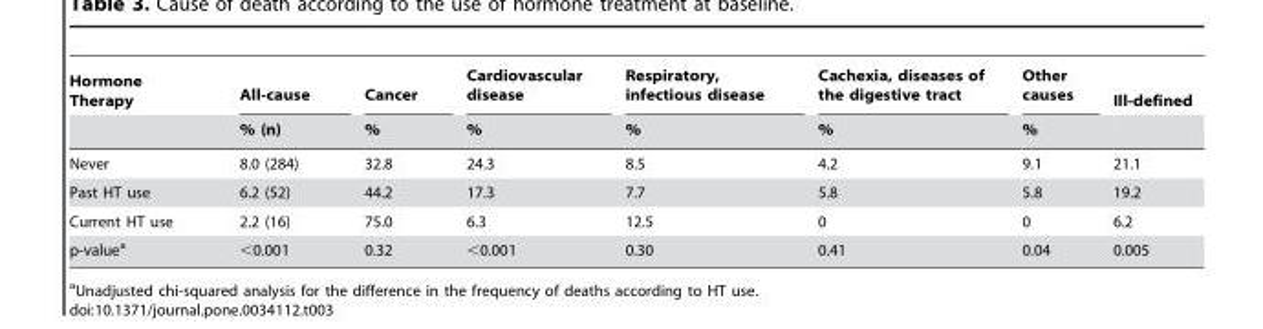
<table><thead><tr><td rowspan="2">Hormone Therapy</td><td rowspan="2">All-cause % (n)</td><td rowspan="2">Cancer %</td><td rowspan="2">Cardiovascular disease %</td><td rowspan="2">Respiratory, infectious disease %</td><td rowspan="2">Cachexia, diseases of the digestive tract %</td><td rowspan="2">Other causes %</td><td rowspan="2">Ill-defined</td></tr><tr></tr></thead><tbody><tr><td>Never</td><td>8.0 (284)</td><td>32.8</td><td>24.3</td><td>8.5</td><td>4.2</td><td>9.1</td><td>21.1</td></tr><tr><td>Past HT use</td><td>6.2 (52)</td><td>44.2</td><td>17.3</td><td>7.7</td><td>5.8</td><td>5.8</td><td>19.2</td></tr><tr><td>Current HT use</td><td>2.2 (16)</td><td>75.0</td><td>6.3</td><td>12.5</td><td>0</td><td>0</td><td>6.2</td></tr><tr><td>p-value<sup>a</sup></td><td>&lt;0.001</td><td>0.32</td><td>&lt;0.001</td><td>0.30</td><td>0.41</td><td>0.04</td><td>0.005</td></tr></tbody></table>